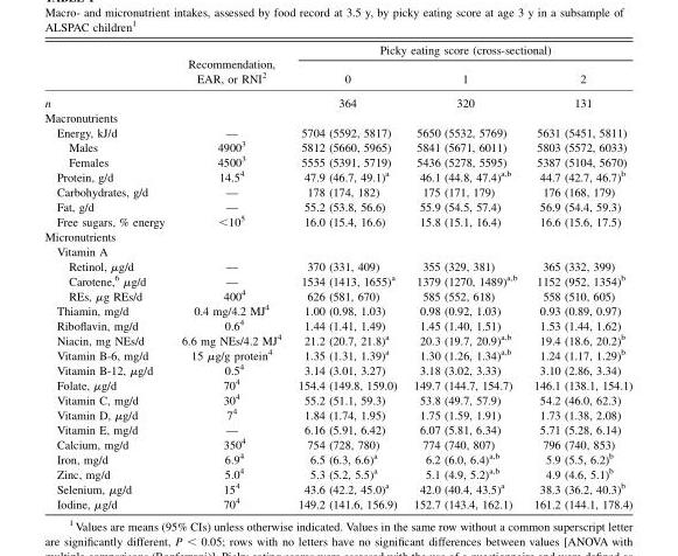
<table><thead><tr><td rowspan="2"></td><td rowspan="2">Recommendation, EAR, or RNI<sup>2</sup></td><td colspan="3">Picky eating score (cross-sectional)</td></tr><tr><td>0</td><td>1</td><td>2</td></tr></thead><tbody><tr><td>n</td><td></td><td>364</td><td>320</td><td>131</td></tr><tr><td colspan="5">Macronutrients</td></tr><tr><td>Energy, kJ/d</td><td>—</td><td>5704 (5592, 5817)</td><td>5650 (5532, 5769)</td><td>5631 (5451, 5811)</td></tr><tr><td>Males</td><td>4900<sup>3</sup></td><td>5812 (5660, 5965)</td><td>5841 (5671, 6011)</td><td>5803 (5572, 6033)</td></tr><tr><td>Females</td><td>4500<sup>3</sup></td><td>5555 (5391, 5719)</td><td>5436 (5278, 5595)</td><td>5387 (5104, 5670)</td></tr><tr><td>Protein, g/d</td><td>14.5<sup>4</sup></td><td>47.9 (46.7, 49.1)<sup>a</sup></td><td>46.1 (44.8, 47.4)<sup>a,b</sup></td><td>44.7 (42.7, 46.7)<sup>b</sup></td></tr><tr><td>Carbohydrates, g/d</td><td>—</td><td>178 (174, 182)</td><td>175 (171, 179)</td><td>176 (168, 179)</td></tr><tr><td>Fat, g/d</td><td>—</td><td>55.2 (53.8, 56.6)</td><td>55.9 (54.5, 57.4)</td><td>56.9 (54.4, 59.3)</td></tr><tr><td>Free sugars, % energy</td><td>&lt;10<sup>5</sup></td><td>16.0 (15.4, 16.6)</td><td>15.8 (15.1, 16.4)</td><td>16.6 (15.6, 17.5)</td></tr><tr><td colspan="5">Micronutrients</td></tr><tr><td colspan="5">Vitamin A</td></tr><tr><td>Retinol, μg/d</td><td>—</td><td>370 (331, 409)</td><td>355 (329, 381)</td><td>365 (332, 399)</td></tr><tr><td>Carotene,<sup>6</sup> μg/d</td><td>—</td><td>1534 (1413, 1655)<sup>a</sup></td><td>1379 (1270, 1489)<sup>a,b</sup></td><td>1152 (952, 1354)<sup>b</sup></td></tr><tr><td>REs, μg REs/d</td><td>400<sup>4</sup></td><td>626 (581, 670)</td><td>585 (552, 618)</td><td>558 (510, 605)</td></tr><tr><td>Thiamin, mg/d</td><td>0.4 mg/4.2 MJ<sup>4</sup></td><td>1.00 (0.98, 1.03)</td><td>0.98 (0.92, 1.03)</td><td>0.93 (0.89, 0.97)</td></tr><tr><td>Riboflavin, mg/d</td><td>0.6<sup>4</sup></td><td>1.44 (1.41, 1.49)</td><td>1.45 (1.40, 1.51)</td><td>1.53 (1.44, 1.62)</td></tr><tr><td>Niacin, mg NEs/d</td><td>6.6 mg NEs/4.2 MJ<sup>4</sup></td><td>21.2 (20.7, 21.8)<sup>a</sup></td><td>20.3 (19.7, 20.9)<sup>a,b</sup></td><td>19.4 (18.6, 20.2)<sup>b</sup></td></tr><tr><td>Vitamin B-6, mg/d</td><td>15 μg/g protein<sup>4</sup></td><td>1.35 (1.31, 1.39)<sup>a</sup></td><td>1.30 (1.26, 1.34)<sup>a,b</sup></td><td>1.24 (1.17, 1.29)<sup>b</sup></td></tr><tr><td>Vitamin B-12, μg/d</td><td>0.5<sup>4</sup></td><td>3.14 (3.01, 3.27)</td><td>3.18 (3.02, 3.33)</td><td>3.10 (2.86, 3.34)</td></tr><tr><td>Folate, μg/d</td><td>70<sup>4</sup></td><td>154.4 (149.8, 159.0)</td><td>149.7 (144.7, 154.7)</td><td>146.1 (138.1, 154.1)</td></tr><tr><td>Vitamin C, mg/d</td><td>30<sup>4</sup></td><td>55.2 (51.1, 59.3)</td><td>53.8 (49.7, 57.9)</td><td>54.2 (46.0, 62.3)</td></tr><tr><td>Vitamin D, μg/d</td><td>7<sup>4</sup></td><td>1.84 (1.74, 1.95)</td><td>1.75 (1.59, 1.91)</td><td>1.73 (1.38, 2.08)</td></tr><tr><td>Vitamin E, mg/d</td><td>—</td><td>6.16 (5.91, 6.42)</td><td>6.07 (5.81, 6.34)</td><td>5.71 (5.28, 6.14)</td></tr><tr><td>Calcium, mg/d</td><td>350<sup>4</sup></td><td>754 (728, 780)</td><td>774 (740, 807)</td><td>796 (740, 853)</td></tr><tr><td>Iron, mg/d</td><td>6.9<sup>4</sup></td><td>6.5 (6.3, 6.6)<sup>a</sup></td><td>6.2 (6.0, 6.4)<sup>a,b</sup></td><td>5.9 (5.5, 6.2)<sup>b</sup></td></tr><tr><td>Zinc, mg/d</td><td>5.0<sup>4</sup></td><td>5.3 (5.2, 5.5)<sup>a</sup></td><td>5.1 (4.9, 5.2)<sup>a,b</sup></td><td>4.9 (4.6, 5.1)<sup>b</sup></td></tr><tr><td>Selenium, μg/d</td><td>15<sup>4</sup></td><td>43.6 (42.2, 45.0)<sup>a</sup></td><td>42.0 (40.4, 43.5)<sup>a</sup></td><td>38.3 (36.2, 40.3)<sup>b</sup></td></tr><tr><td>Iodine, μg/d</td><td>70<sup>4</sup></td><td>149.2 (141.6, 156.9)</td><td>152.7 (143.4, 162.1)</td><td>161.2 (144.1, 178.4)</td></tr></tbody></table>